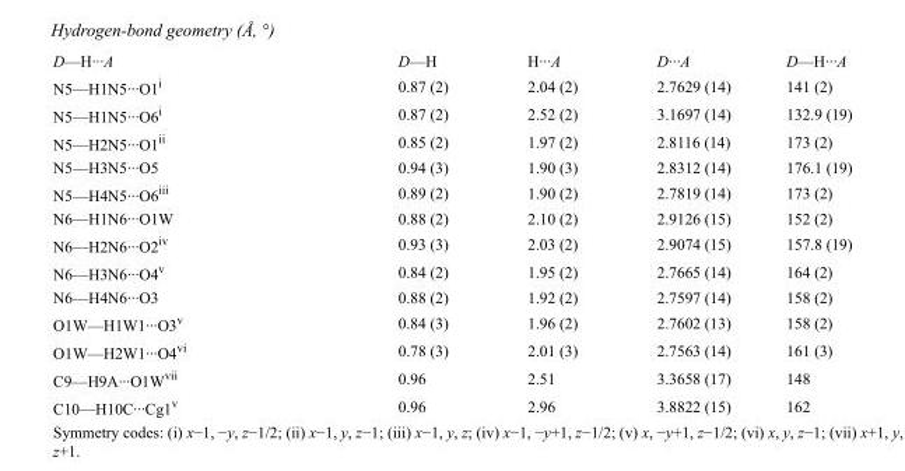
<table><tbody><tr><td>D—H···A</td><td>D—H</td><td>H···A</td><td>D···A</td><td>D—H···A</td></tr><tr><td>N5—H1N5···O1<sup>i</sup></td><td>0.87 (2)</td><td>2.04 (2)</td><td>2.7629 (14)</td><td>141 (2)</td></tr><tr><td>N5—H1N5···O6<sup>i</sup></td><td>0.87 (2)</td><td>2.52 (2)</td><td>3.1697 (14)</td><td>132.9 (19)</td></tr><tr><td>N5—H2N5···O1<sup>ii</sup></td><td>0.85 (2)</td><td>1.97 (2)</td><td>2.8116 (14)</td><td>173 (2)</td></tr><tr><td>N5—H3N5···O5</td><td>0.94 (3)</td><td>1.90 (3)</td><td>2.8312 (14)</td><td>176.1 (19)</td></tr><tr><td>N5—H4N5···O6<sup>iii</sup></td><td>0.89 (2)</td><td>1.90 (2)</td><td>2.7819 (14)</td><td>173 (2)</td></tr><tr><td>N6—H1N6···O1W</td><td>0.88 (2)</td><td>2.10 (2)</td><td>2.9126 (15)</td><td>152 (2)</td></tr><tr><td>N6—H2N6···O2<sup>iv</sup></td><td>0.93 (3)</td><td>2.03 (2)</td><td>2.9074 (15)</td><td>157.8 (19)</td></tr><tr><td>N6—H3N6···O4<sup>v</sup></td><td>0.84 (2)</td><td>1.95 (2)</td><td>2.7665 (14)</td><td>164 (2)</td></tr><tr><td>N6—H4N6···O3</td><td>0.88 (2)</td><td>1.92 (2)</td><td>2.7597 (14)</td><td>158 (2)</td></tr><tr><td>O1W—H1W1···O3<sup>v</sup></td><td>0.84 (3)</td><td>1.96 (2)</td><td>2.7602 (13)</td><td>158 (2)</td></tr><tr><td>O1W—H2W1···O4<sup>vi</sup></td><td>0.78 (3)</td><td>2.01 (3)</td><td>2.7563 (14)</td><td>161 (3)</td></tr><tr><td>C9—H9A···O1W<sup>vii</sup></td><td>0.96</td><td>2.51</td><td>3.3658 (17)</td><td>148</td></tr><tr><td>C10—H10C···Cg1<sup>v</sup></td><td>0.96</td><td>2.96</td><td>3.8822 (15)</td><td>162</td></tr></tbody></table>